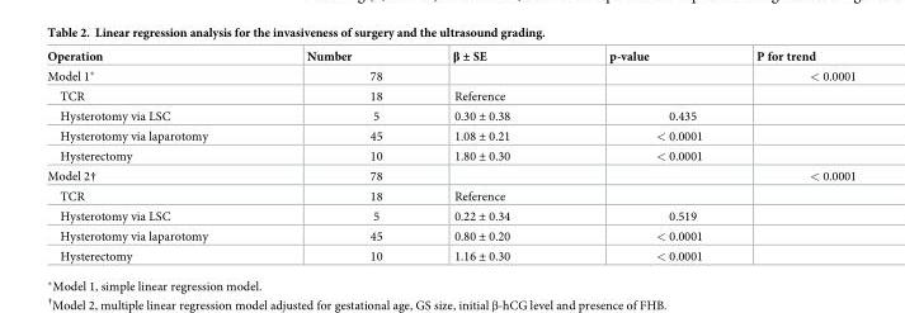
<table><thead><tr><td>Operation</td><td>Number</td><td>β ± SE</td><td>p-value</td><td>P for trend</td></tr></thead><tbody><tr><td>Model 1*</td><td>78</td><td></td><td></td><td>&lt; 0.0001</td></tr><tr><td>TCR</td><td>18</td><td>Reference</td><td></td><td></td></tr><tr><td>Hysterotomy via LSC</td><td>5</td><td>0.30 ± 0.38</td><td>0.435</td><td></td></tr><tr><td>Hysterotomy via laparotomy</td><td>45</td><td>1.08 ± 0.21</td><td>&lt; 0.0001</td><td></td></tr><tr><td>Hysterectomy</td><td>10</td><td>1.80 ± 0.30</td><td>&lt; 0.0001</td><td></td></tr><tr><td>Model 2†</td><td>78</td><td></td><td></td><td>&lt; 0.0001</td></tr><tr><td>TCR</td><td>18</td><td>Reference</td><td></td><td></td></tr><tr><td>Hysterotomy via LSC</td><td>5</td><td>0.22 ± 0.34</td><td>0.519</td><td></td></tr><tr><td>Hysterotomy via laparotomy</td><td>45</td><td>0.80 ± 0.20</td><td>&lt; 0.0001</td><td></td></tr><tr><td>Hysterectomy</td><td>10</td><td>1.16 ± 0.30</td><td>&lt; 0.0001</td><td></td></tr></tbody></table>